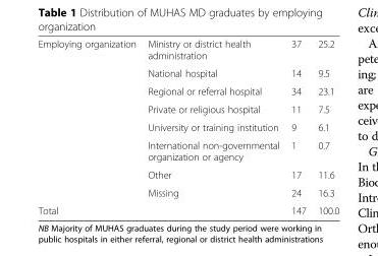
<table><tbody><tr><td rowspan="8">Employing organization</td><td>Ministry or district health administration</td><td>37</td><td>25.2</td></tr><tr><td>National hospital</td><td>14</td><td>9.5</td></tr><tr><td>Regional or referral hospital</td><td>34</td><td>23.1</td></tr><tr><td>Private or religious hospital</td><td>11</td><td>7.5</td></tr><tr><td>University or training institution</td><td>9</td><td>6.1</td></tr><tr><td>International non-governmental organization or agency</td><td>1</td><td>0.7</td></tr><tr><td>Other</td><td>17</td><td>11.6</td></tr><tr><td>Missing</td><td>24</td><td>16.3</td></tr><tr><td>Total</td><td></td><td>147</td><td>100.0</td></tr></tbody></table>